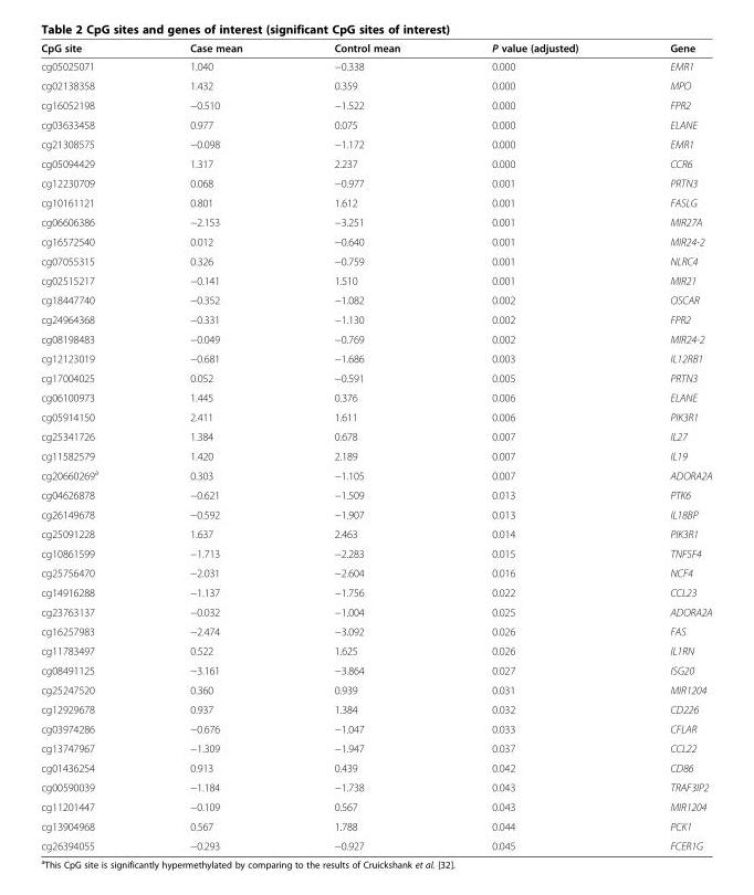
<table><thead><tr><td>CpG site</td><td>Case mean</td><td>Control mean</td><td>P value (adjusted)</td><td>Gene</td></tr></thead><tbody><tr><td>cg05025071</td><td>1.040</td><td>−0.338</td><td>0.000</td><td>EMR1</td></tr><tr><td>cg02138358</td><td>1.432</td><td>0.359</td><td>0.000</td><td>MPO</td></tr><tr><td>cg16052198</td><td>−0.510</td><td>−1.522</td><td>0.000</td><td>FPR2</td></tr><tr><td>cg03633458</td><td>0.977</td><td>0.075</td><td>0.000</td><td>ELANE</td></tr><tr><td>cg21308575</td><td>−0.098</td><td>−1.172</td><td>0.000</td><td>EMR1</td></tr><tr><td>cg05094429</td><td>1.317</td><td>2.237</td><td>0.000</td><td>CCR6</td></tr><tr><td>cg12230709</td><td>0.068</td><td>−0.977</td><td>0.001</td><td>PRTN3</td></tr><tr><td>cg10161121</td><td>0.801</td><td>1.612</td><td>0.001</td><td>FASLG</td></tr><tr><td>cg06606386</td><td>−2.153</td><td>−3.251</td><td>0.001</td><td>MIR27A</td></tr><tr><td>cg16572540</td><td>0.012</td><td>−0.640</td><td>0.001</td><td>MIR24-2</td></tr><tr><td>cg07055315</td><td>0.326</td><td>−0.759</td><td>0.001</td><td>NLRC4</td></tr><tr><td>cg02515217</td><td>−0.141</td><td>1.510</td><td>0.001</td><td>MIR21</td></tr><tr><td>cg18447740</td><td>−0.352</td><td>−1.082</td><td>0.002</td><td>OSCAR</td></tr><tr><td>cg24964368</td><td>−0.331</td><td>−1.130</td><td>0.002</td><td>FPR2</td></tr><tr><td>cg08198483</td><td>−0.049</td><td>−0.769</td><td>0.002</td><td>MIR24-2</td></tr><tr><td>cg12123019</td><td>−0.681</td><td>−1.686</td><td>0.003</td><td>IL12RB1</td></tr><tr><td>cg17004025</td><td>0.052</td><td>−0.591</td><td>0.005</td><td>PRTN3</td></tr><tr><td>cg06100973</td><td>1.445</td><td>0.376</td><td>0.006</td><td>ELANE</td></tr><tr><td>cg05914150</td><td>2.411</td><td>1.611</td><td>0.006</td><td>PIK3R1</td></tr><tr><td>cg25341726</td><td>1.384</td><td>0.678</td><td>0.007</td><td>IL27</td></tr><tr><td>cg11582579</td><td>1.420</td><td>2.189</td><td>0.007</td><td>IL19</td></tr><tr><td>cg20660269<sup>a</sup></td><td>0.303</td><td>−1.105</td><td>0.007</td><td>ADORA2A</td></tr><tr><td>cg04626878</td><td>−0.621</td><td>−1.509</td><td>0.013</td><td>PTK6</td></tr><tr><td>cg26149678</td><td>−0.592</td><td>−1.907</td><td>0.013</td><td>IL18BP</td></tr><tr><td>cg25091228</td><td>1.637</td><td>2.463</td><td>0.014</td><td>PIK3R1</td></tr><tr><td>cg10861599</td><td>−1.713</td><td>−2.283</td><td>0.015</td><td>TNFSF4</td></tr><tr><td>cg25756470</td><td>−2.031</td><td>−2.604</td><td>0.016</td><td>NCF4</td></tr><tr><td>cg14916288</td><td>−1.137</td><td>−1.756</td><td>0.022</td><td>CCL23</td></tr><tr><td>cg23763137</td><td>−0.032</td><td>−1.004</td><td>0.025</td><td>ADORA2A</td></tr><tr><td>cg16257983</td><td>−2.474</td><td>−3.092</td><td>0.026</td><td>FAS</td></tr><tr><td>cg11783497</td><td>0.522</td><td>1.625</td><td>0.026</td><td>IL1RN</td></tr><tr><td>cg08491125</td><td>−3.161</td><td>−3.864</td><td>0.027</td><td>ISG20</td></tr><tr><td>cg25247520</td><td>0.360</td><td>0.939</td><td>0.031</td><td>MIR1204</td></tr><tr><td>cg12929678</td><td>0.937</td><td>1.384</td><td>0.032</td><td>CD226</td></tr><tr><td>cg03974286</td><td>−0.676</td><td>−1.047</td><td>0.033</td><td>CFLAR</td></tr><tr><td>cg13747967</td><td>−1.309</td><td>−1.947</td><td>0.037</td><td>CCL22</td></tr><tr><td>cg01436254</td><td>0.913</td><td>0.439</td><td>0.042</td><td>CD86</td></tr><tr><td>cg00590039</td><td>−1.184</td><td>−1.738</td><td>0.043</td><td>TRAF3IP2</td></tr><tr><td>cg11201447</td><td>−0.109</td><td>0.567</td><td>0.043</td><td>MIR1204</td></tr><tr><td>cg13904968</td><td>0.567</td><td>1.788</td><td>0.044</td><td>PCK1</td></tr><tr><td>cg26394055</td><td>−0.293</td><td>−0.927</td><td>0.045</td><td>FCER1G</td></tr></tbody></table>